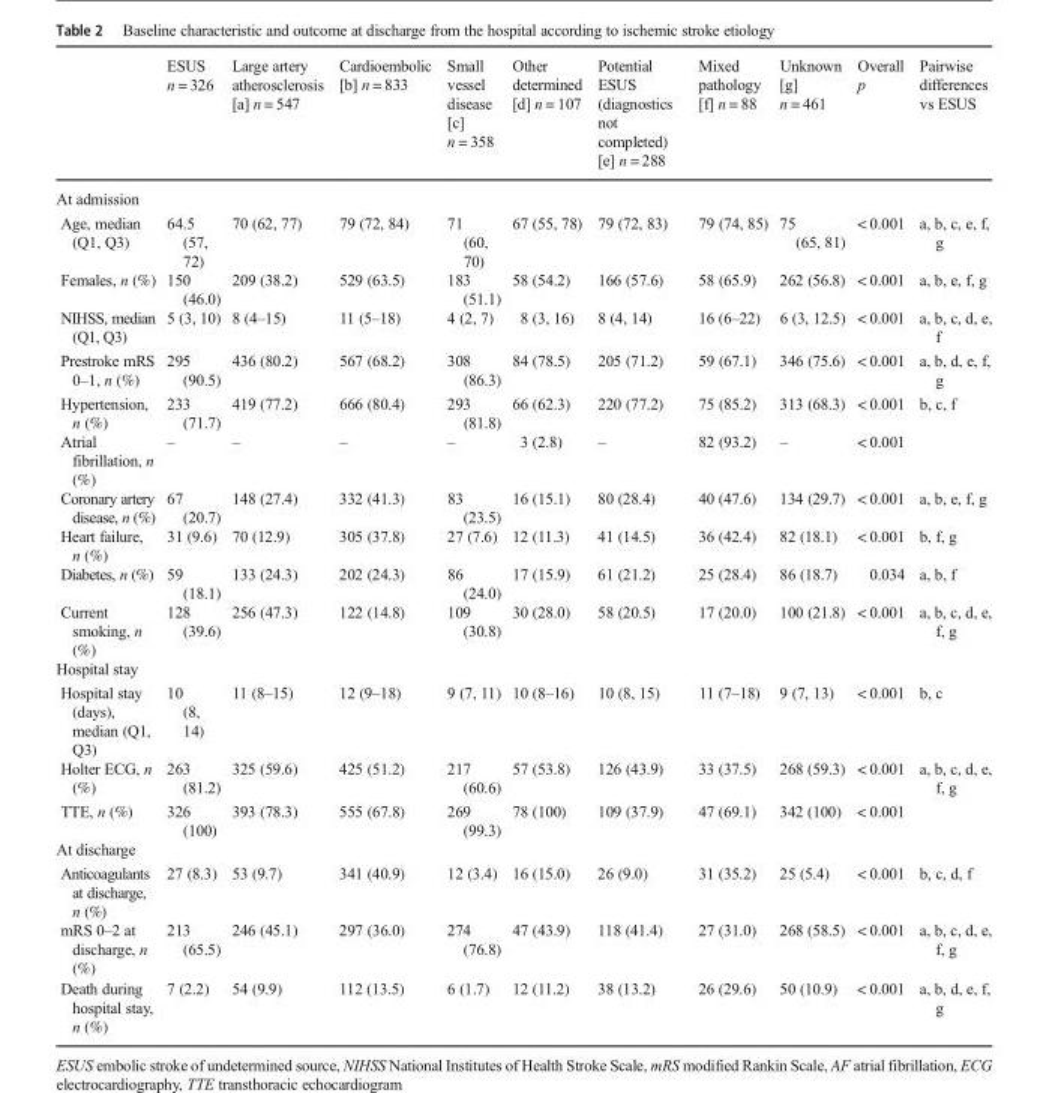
<table><thead><tr><td></td><td>ESUS n = 326</td><td>Large artery atherosclerosis [a] n = 547</td><td>Cardioembolic [b] n = 833</td><td>Small vessel disease [c] n = 358</td><td>Other determined [d] n = 107</td><td>Potential ESUS (diagnostics not completed) [e] n = 288</td><td>Mixed pathology [f] n = 88</td><td>Unknown [g] n = 461</td><td>Overall p</td><td>Pairwise differences vs ESUS</td></tr></thead><tbody><tr><td colspan="11">At admission</td></tr><tr><td>Age, median (Q1, Q3)</td><td>64.5 (57, 72)</td><td>70 (62, 77)</td><td>79 (72, 84)</td><td>71 (60, 70)</td><td>67 (55, 78)</td><td>79 (72, 83)</td><td>79 (74, 85)</td><td>75 (65, 81)</td><td>&lt; 0.001</td><td>a, b, c, e, f, g</td></tr><tr><td>Females, n (%)</td><td>150 (46.0)</td><td>209 (38.2)</td><td>529 (63.5)</td><td>183 (51.1)</td><td>58 (54.2)</td><td>166 (57.6)</td><td>58 (65.9)</td><td>262 (56.8)</td><td>&lt; 0.001</td><td>a, b, e, f, g</td></tr><tr><td>NIHSS, median (Q1, Q3)</td><td>5 (3, 10)</td><td>8 (4–15)</td><td>11 (5–18)</td><td>4 (2, 7)</td><td>8 (3, 16)</td><td>8 (4, 14)</td><td>16 (6–22)</td><td>6 (3, 12.5)</td><td>&lt; 0.001</td><td>a, b, c, d, e, f</td></tr><tr><td>Prestroke mRS 0–1, n (%)</td><td>295 (90.5)</td><td>436 (80.2)</td><td>567 (68.2)</td><td>308 (86.3)</td><td>84 (78.5)</td><td>205 (71.2)</td><td>59 (67.1)</td><td>346 (75.6)</td><td>&lt; 0.001</td><td>a, b, d, e, f, g</td></tr><tr><td>Hypertension, n (%)</td><td>233 (71.7)</td><td>419 (77.2)</td><td>666 (80.4)</td><td>293 (81.8)</td><td>66 (62.3)</td><td>220 (77.2)</td><td>75 (85.2)</td><td>313 (68.3)</td><td>&lt; 0.001</td><td>b, c, f</td></tr><tr><td>Atrial fibrillation, n (%)</td><td>–</td><td>–</td><td>–</td><td>–</td><td>3 (2.8)</td><td>–</td><td>82 (93.2)</td><td>–</td><td>&lt; 0.001</td><td></td></tr><tr><td>Coronary artery disease, n (%)</td><td>67 (20.7)</td><td>148 (27.4)</td><td>332 (41.3)</td><td>83 (23.5)</td><td>16 (15.1)</td><td>80 (28.4)</td><td>40 (47.6)</td><td>134 (29.7)</td><td>&lt; 0.001</td><td>a, b, e, f, g</td></tr><tr><td>Heart failure, n (%)</td><td>31 (9.6)</td><td>70 (12.9)</td><td>305 (37.8)</td><td>27 (7.6)</td><td>12 (11.3)</td><td>41 (14.5)</td><td>36 (42.4)</td><td>82 (18.1)</td><td>&lt; 0.001</td><td>b, f, g</td></tr><tr><td>Diabetes, n (%)</td><td>59 (18.1)</td><td>133 (24.3)</td><td>202 (24.3)</td><td>86 (24.0)</td><td>17 (15.9)</td><td>61 (21.2)</td><td>25 (28.4)</td><td>86 (18.7)</td><td>0.034</td><td>a, b, f</td></tr><tr><td>Current smoking, n (%)</td><td>128 (39.6)</td><td>256 (47.3)</td><td>122 (14.8)</td><td>109 (30.8)</td><td>30 (28.0)</td><td>58 (20.5)</td><td>17 (20.0)</td><td>100 (21.8)</td><td>&lt; 0.001</td><td>a, b, c, d, e, f, g</td></tr><tr><td colspan="11">Hospital stay</td></tr><tr><td>Hospital stay (days), median (Q1, Q3)</td><td>10 (8, 14)</td><td>11 (8–15)</td><td>12 (9–18)</td><td>9 (7, 11)</td><td>10 (8–16)</td><td>10 (8, 15)</td><td>11 (7–18)</td><td>9 (7, 13)</td><td>&lt; 0.001</td><td>b, c</td></tr><tr><td>Holter ECG, n (%)</td><td>263 (81.2)</td><td>325 (59.6)</td><td>425 (51.2)</td><td>217 (60.6)</td><td>57 (53.8)</td><td>126 (43.9)</td><td>33 (37.5)</td><td>268 (59.3)</td><td>&lt; 0.001</td><td>a, b, c, d, e, f, g</td></tr><tr><td>TTE, n (%)</td><td>326 (100)</td><td>393 (78.3)</td><td>555 (67.8)</td><td>269 (99.3)</td><td>78 (100)</td><td>109 (37.9)</td><td>47 (69.1)</td><td>342 (100)</td><td>&lt; 0.001</td><td></td></tr><tr><td colspan="11">At discharge</td></tr><tr><td>Anticoagulants at discharge, n (%)</td><td>27 (8.3)</td><td>53 (9.7)</td><td>341 (40.9)</td><td>12 (3.4)</td><td>16 (15.0)</td><td>26 (9.0)</td><td>31 (35.2)</td><td>25 (5.4)</td><td>&lt; 0.001</td><td>b, c, d, f</td></tr><tr><td>mRS 0–2 at discharge, n (%)</td><td>213 (65.5)</td><td>246 (45.1)</td><td>297 (36.0)</td><td>274 (76.8)</td><td>47 (43.9)</td><td>118 (41.4)</td><td>27 (31.0)</td><td>268 (58.5)</td><td>&lt; 0.001</td><td>a, b, c, d, e, f, g</td></tr><tr><td>Death during hospital stay, n (%)</td><td>7 (2.2)</td><td>54 (9.9)</td><td>112 (13.5)</td><td>6 (1.7)</td><td>12 (11.2)</td><td>38 (13.2)</td><td>26 (29.6)</td><td>50 (10.9)</td><td>&lt; 0.001</td><td>a, b, d, e, f, g</td></tr></tbody></table>